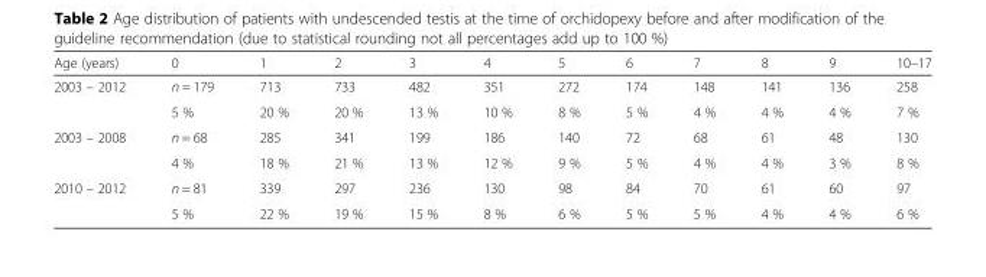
<table><thead><tr><td>Age (years)</td><td>0</td><td>1</td><td>2</td><td>3</td><td>4</td><td>5</td><td>6</td><td>7</td><td>8</td><td>9</td><td>10–17</td></tr></thead><tbody><tr><td rowspan="2">2003 – 2012</td><td>n = 179</td><td>713</td><td>733</td><td>482</td><td>351</td><td>272</td><td>174</td><td>148</td><td>141</td><td>136</td><td>258</td></tr><tr><td>5 %</td><td>20 %</td><td>20 %</td><td>13 %</td><td>10 %</td><td>8 %</td><td>5 %</td><td>4 %</td><td>4 %</td><td>4 %</td><td>7 %</td></tr><tr><td rowspan="2">2003 – 2008</td><td>n = 68</td><td>285</td><td>341</td><td>199</td><td>186</td><td>140</td><td>72</td><td>68</td><td>61</td><td>48</td><td>130</td></tr><tr><td>4 %</td><td>18 %</td><td>21 %</td><td>13 %</td><td>12 %</td><td>9 %</td><td>5 %</td><td>4 %</td><td>4 %</td><td>3 %</td><td>8 %</td></tr><tr><td rowspan="2">2010 – 2012</td><td>n = 81</td><td>339</td><td>297</td><td>236</td><td>130</td><td>98</td><td>84</td><td>70</td><td>61</td><td>60</td><td>97</td></tr><tr><td>5 %</td><td>22 %</td><td>19 %</td><td>15 %</td><td>8 %</td><td>6 %</td><td>5 %</td><td>5 %</td><td>4 %</td><td>4 %</td><td>6 %</td></tr></tbody></table>